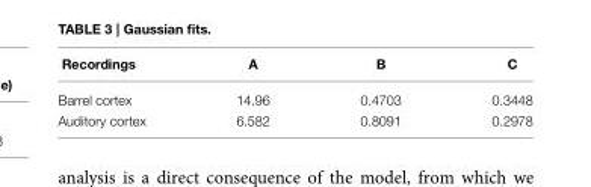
<table><thead><tr><td>Recordings</td><td>A</td><td>B</td><td>C</td></tr></thead><tbody><tr><td>Barrel cortex</td><td>14.96</td><td>0.4703</td><td>0.3448</td></tr><tr><td>Auditory cortex</td><td>6.582</td><td>0.8091</td><td>0.2978</td></tr></tbody></table>